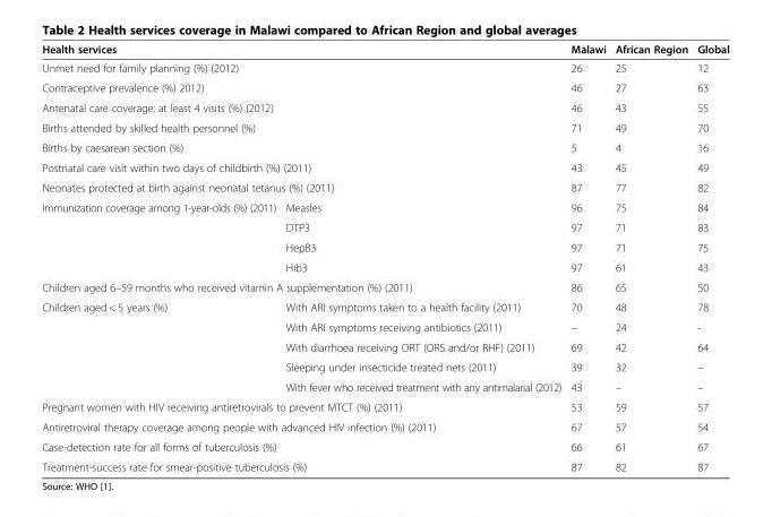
<table><thead><tr><td colspan="2">Health services</td><td>Malawi</td><td>African Region</td><td>Global</td></tr></thead><tbody><tr><td colspan="2">Unmet need for family planning (%) (2012)</td><td>26</td><td>25</td><td>12</td></tr><tr><td colspan="2">Contraceptive prevalence (%) 2012)</td><td>46</td><td>27</td><td>63</td></tr><tr><td colspan="2">Antenatal care coverage: at least 4 visits (%) (2012)</td><td>46</td><td>43</td><td>55</td></tr><tr><td colspan="2">Births attended by skilled health personnel (%)</td><td>71</td><td>49</td><td>70</td></tr><tr><td colspan="2">Births by caesarean section (%)</td><td>5</td><td>4</td><td>16</td></tr><tr><td colspan="2">Postnatal care visit within two days of childbirth (%) (2011)</td><td>43</td><td>45</td><td>49</td></tr><tr><td colspan="2">Neonates protected at birth against neonatal tetanus (%) (2011)</td><td>87</td><td>77</td><td>82</td></tr><tr><td rowspan="4">Immunization coverage among 1-year-olds (%) (2011)</td><td>Measles</td><td>96</td><td>75</td><td>84</td></tr><tr><td>DTP3</td><td>97</td><td>71</td><td>83</td></tr><tr><td>HepB3</td><td>97</td><td>71</td><td>75</td></tr><tr><td>Hib3</td><td>97</td><td>61</td><td>43</td></tr><tr><td colspan="2">Children aged 6–59 months who received vitamin A supplementation (%) (2011)</td><td>86</td><td>65</td><td>50</td></tr><tr><td rowspan="5">Children aged &lt; 5 years (%)</td><td>With ARI symptoms taken to a health facility (2011)</td><td>70</td><td>48</td><td>78</td></tr><tr><td>With ARI symptoms receiving antibiotics (2011)</td><td>–</td><td>24</td><td>-</td></tr><tr><td>With diarrhoea receiving ORT (ORS and/or RHF) (2011)</td><td>69</td><td>42</td><td>64</td></tr><tr><td>Sleeping under insecticide treated nets (2011)</td><td>39</td><td>32</td><td>–</td></tr><tr><td>With fever who received treatment with any antimalarial (2012)</td><td>43</td><td>–</td><td>–</td></tr><tr><td colspan="2">Pregnant women with HIV receiving antiretrovirals to prevent MTCT (%) (2011)</td><td>53</td><td>59</td><td>57</td></tr><tr><td colspan="2">Antiretroviral therapy coverage among people with advanced HIV infection (%) (2011)</td><td>67</td><td>57</td><td>54</td></tr><tr><td colspan="2">Case-detection rate for all forms of tuberculosis (%)</td><td>66</td><td>61</td><td>67</td></tr><tr><td colspan="2">Treatment-success rate for smear-positive tuberculosis (%)</td><td>87</td><td>82</td><td>87</td></tr></tbody></table>